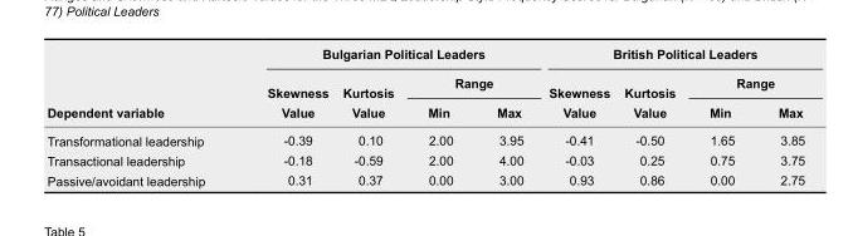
<table><thead><tr><td rowspan="3">Dependent variable</td><td colspan="4">Bulgarian Political Leaders</td><td colspan="4">British Political Leaders</td></tr><tr><td rowspan="2">Skewness Value</td><td rowspan="2">Kurtosis Value</td><td colspan="2">Range</td><td rowspan="2">Skewness Value</td><td rowspan="2">Kurtosis Value</td><td colspan="2">Range</td></tr><tr><td>Min</td><td>Max</td><td>Min</td><td>Max</td></tr></thead><tbody><tr><td>Transformational leadership</td><td>-0.39</td><td>0.10</td><td>2.00</td><td>3.95</td><td>-0.41</td><td>-0.50</td><td>1.65</td><td>3.85</td></tr><tr><td>Transactional leadership</td><td>-0.18</td><td>-0.59</td><td>2.00</td><td>4.00</td><td>-0.03</td><td>0.25</td><td>0.75</td><td>3.75</td></tr><tr><td>Passive/avoidant leadership</td><td>0.31</td><td>0.37</td><td>0.00</td><td>3.00</td><td>0.93</td><td>0.86</td><td>0.00</td><td>2.75</td></tr></tbody></table>